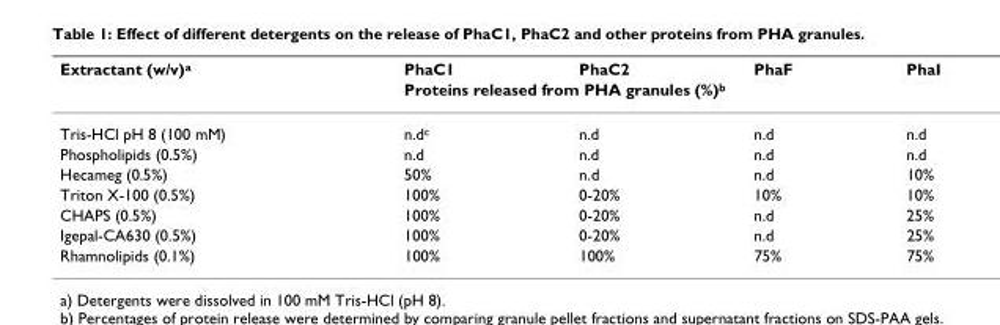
<table><thead><tr><td rowspan="2">Extractant (w/v)<sup>a</sup></td><td>PhaC1</td><td>PhaC2</td><td>PhaF</td><td>PhaI</td></tr><tr><td colspan="4">Proteins released from PHA granules (%)<sup>b</sup></td></tr></thead><tbody><tr><td>Tris-HCl pH 8 (100 mM)</td><td>n.d<sup>c</sup></td><td>n.d</td><td>n.d</td><td>n.d</td></tr><tr><td>Phospholipids (0.5%)</td><td>n.d</td><td>n.d</td><td>n.d</td><td>n.d</td></tr><tr><td>Hecameg (0.5%)</td><td>50%</td><td>n.d</td><td>n.d</td><td>10%</td></tr><tr><td>Triton X-100 (0.5%)</td><td>100%</td><td>0-20%</td><td>10%</td><td>10%</td></tr><tr><td>CHAPS (0.5%)</td><td>100%</td><td>0-20%</td><td>n.d</td><td>25%</td></tr><tr><td>Igepal-CA630 (0.5%)</td><td>100%</td><td>0-20%</td><td>n.d</td><td>25%</td></tr><tr><td>Rhamnolipids (0.1%)</td><td>100%</td><td>100%</td><td>75%</td><td>75%</td></tr></tbody></table>